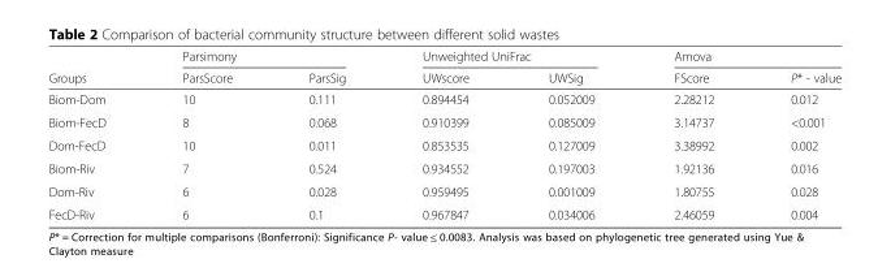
<table><thead><tr><td rowspan="2">Groups</td><td colspan="2">Parsimony</td><td colspan="2">Unweighted UniFrac</td><td colspan="2">Amova</td></tr><tr><td>ParsScore</td><td>ParsSig</td><td>UWscore</td><td>UWSig</td><td>FScore</td><td>P* - value</td></tr></thead><tbody><tr><td>Biom-Dom</td><td>10</td><td>0.111</td><td>0.894454</td><td>0.052009</td><td>2.28212</td><td>0.012</td></tr><tr><td>Biom-FecD</td><td>8</td><td>0.068</td><td>0.910399</td><td>0.085009</td><td>3.14737</td><td>&lt;0.001</td></tr><tr><td>Dom-FecD</td><td>10</td><td>0.011</td><td>0.853535</td><td>0.127009</td><td>3.38992</td><td>0.002</td></tr><tr><td>Biom-Riv</td><td>7</td><td>0.524</td><td>0.934552</td><td>0.197003</td><td>1.92136</td><td>0.016</td></tr><tr><td>Dom-Riv</td><td>6</td><td>0.028</td><td>0.959495</td><td>0.001009</td><td>1.80755</td><td>0.028</td></tr><tr><td>FecD-Riv</td><td>6</td><td>0.1</td><td>0.967847</td><td>0.034006</td><td>2.46059</td><td>0.004</td></tr></tbody></table>